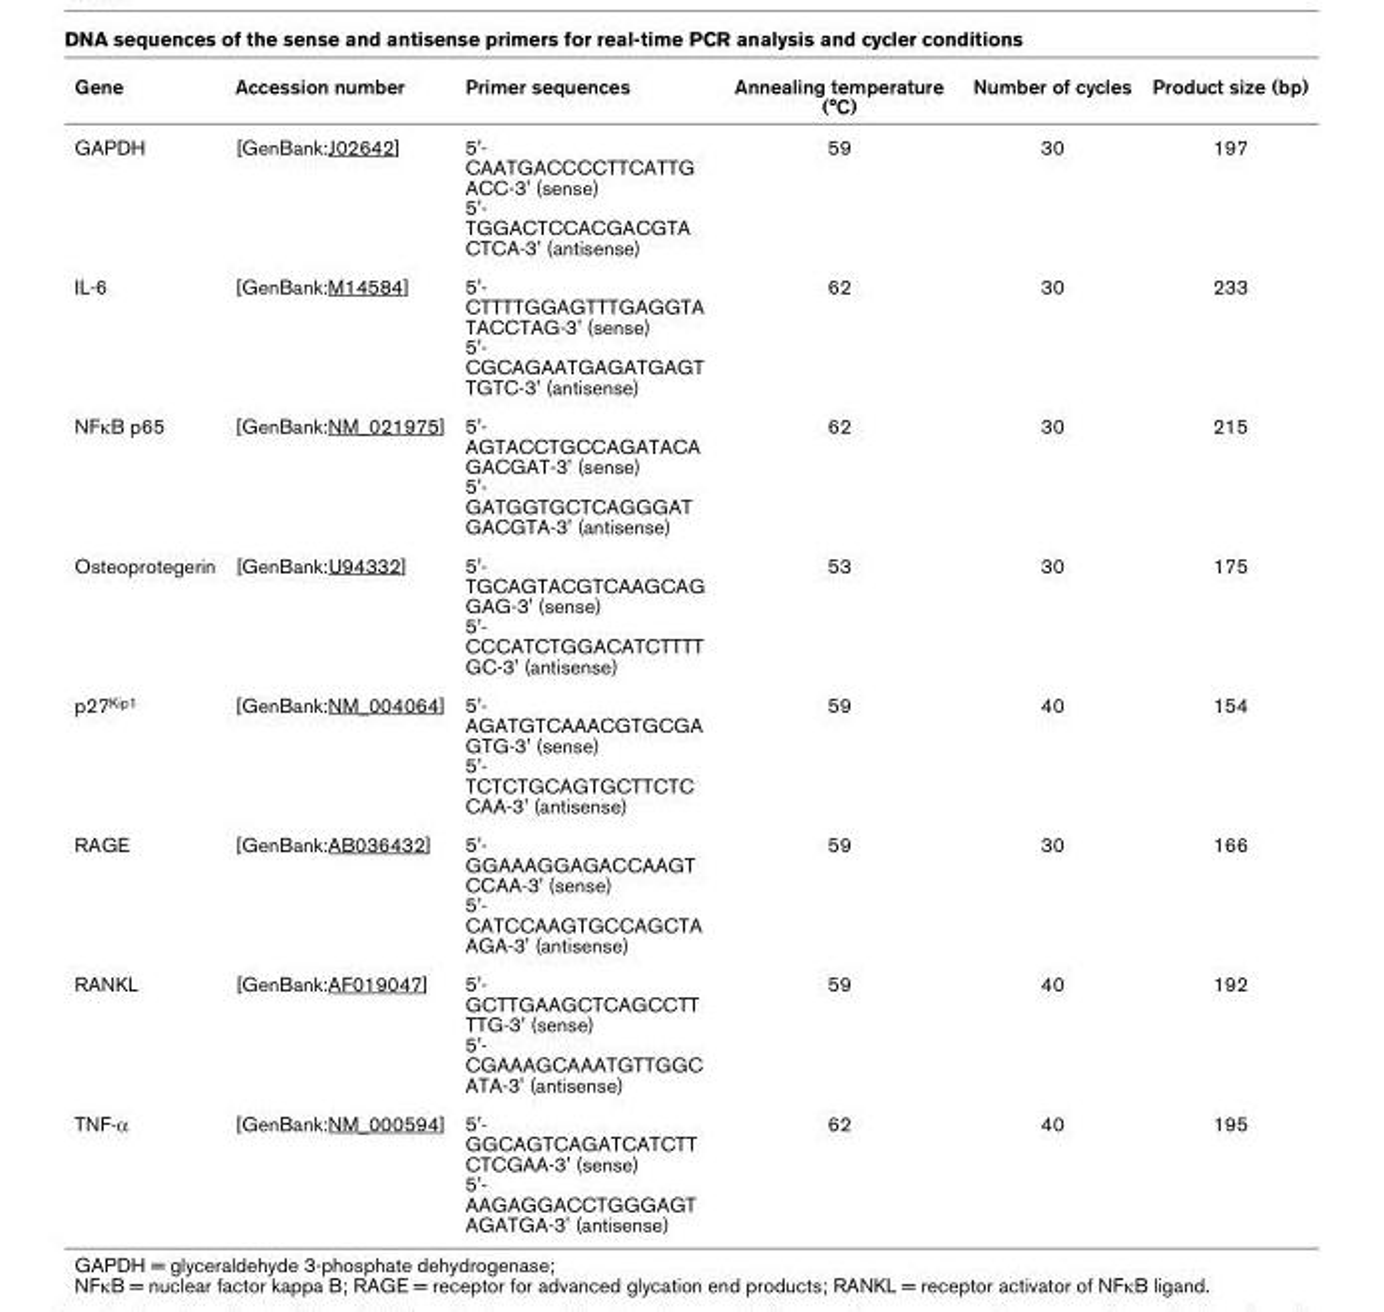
<table><thead><tr><td>Gene</td><td>Accession number</td><td>Primer sequences</td><td>Annealing temperature (°C)</td><td>Number of cycles</td><td>Product size (bp)</td></tr></thead><tbody><tr><td>GAPDH</td><td>[GenBank:J02642]</td><td>5&#x27;- CAATGACCCCTTCATTG ACC-3&#x27; (sense) 5&#x27;- TGGACTCCACGACGTA CTCA-3&#x27; (antisense)</td><td>59</td><td>30</td><td>197</td></tr><tr><td>IL-6</td><td>[GenBank:M14584]</td><td>5&#x27;- CTTTTGGAGTTTGAGGTA TACCTAG-3&#x27; (sense) 5&#x27;- CGCAGAATGAGATGAGT TGTC-3&#x27; (antisense)</td><td>62</td><td>30</td><td>233</td></tr><tr><td>NFκB p65</td><td>[GenBank:NM_021975]</td><td>5&#x27;- AGTACCTGCCAGATACA GACGAT-3&#x27; (sense) 5&#x27;- GATGGTGCTCAGGGAT GACGTA-3&#x27; (antisense)</td><td>62</td><td>30</td><td>215</td></tr><tr><td>Osteoprotegerin</td><td>[GenBank:U94332]</td><td>5&#x27;- TGCAGTACGTCAAGCAG GAG-3&#x27; (sense) 5&#x27;- CCCATCTGGACATCTTTT GC-3&#x27; (antisense)</td><td>53</td><td>30</td><td>175</td></tr><tr><td>p27<sup>Kip1</sup></td><td>[GenBank:NM_004064]</td><td>5&#x27;- AGATGTCAAACGTGCGA GTG-3&#x27; (sense) 5&#x27;- TCTCTGCAGTGCTTCTC CAA-3&#x27; (antisense)</td><td>59</td><td>40</td><td>154</td></tr><tr><td>RAGE</td><td>[GenBank:AB036432]</td><td>5&#x27;- GGAAAGGAGACCAAGT CCAA-3&#x27; (sense) 5&#x27;- CATCCAAGTGCCAGCTA AGA-3&#x27; (antisense)</td><td>59</td><td>30</td><td>166</td></tr><tr><td>RANKL</td><td>[GenBank:AF019047]</td><td>5&#x27;- GCTTGAAGCTCAGCCTT TTG-3&#x27; (sense) 5&#x27;- CGAAAGCAAATGTTGGC ATA-3&#x27; (antisense)</td><td>59</td><td>40</td><td>192</td></tr><tr><td>TNF-α</td><td>[GenBank:NM_000594]</td><td>5&#x27;- GGCAGTCAGATCATCTT CTCGAA-3&#x27; (sense) 5&#x27;- AAGAGGACCTGGGAGT AGATGA-3&#x27; (antisense)</td><td>62</td><td>40</td><td>195</td></tr></tbody></table>